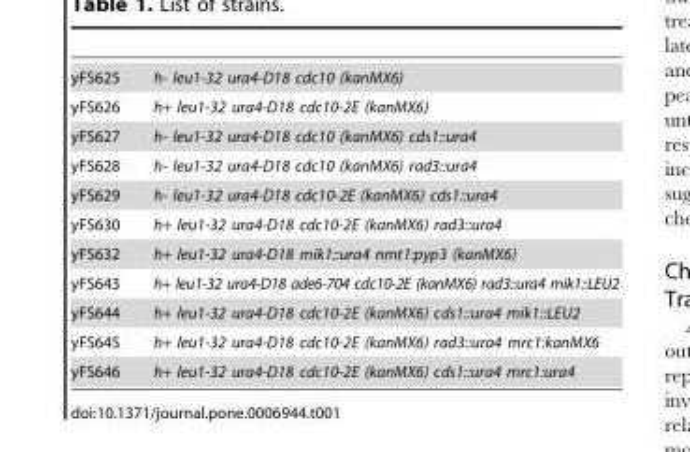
<table><tbody><tr><td>yFS625</td><td>h- leu1-32 ura4-D18 cdc10 (kanMX6)</td></tr><tr><td>yFS626</td><td>h+ leu1-32 ura4-D18 cdc10-2E (kanMX6)</td></tr><tr><td>yFS627</td><td>h- leu1-32 ura4-D18 cdc10 (kanMX6) cds1::ura4</td></tr><tr><td>yFS628</td><td>h- leu1-32 ura4-D18 cdc10 (kanMX6) rad3::ura4</td></tr><tr><td>yFS629</td><td>h- leu1-32 ura4-D18 cdc10-2E (kanMX6) cds1::ura4</td></tr><tr><td>yFS630</td><td>h+ leu1-32 ura4-D18 cdc10-2E (kanMX6) rad3::ura4</td></tr><tr><td>yFS632</td><td>h+ leu1-32 ura4-D18 mik1::ura4 nmt1:pyp3 (kanMX6)</td></tr><tr><td>yFS643</td><td>h+ leu1-32 ura4-D18 ade6-704 cdc10-2E (kanMX6) rad3::ura4 mik1::LEU2</td></tr><tr><td>yFS644</td><td>h+ leu1-32 ura4-D18 cdc10-2E (kanMX6) cds1::ura4 mik1::LEU2</td></tr><tr><td>yFS645</td><td>h+ leu1-32 ura4-D18 cdc10-2E (kanMX6) rad3::ura4 mrc1:kanMX6</td></tr><tr><td>yFS646</td><td>h+ leu1-32 ura4-D18 cdc10-2E (kanMX6) cds1::ura4 mrc1:ura4</td></tr></tbody></table>